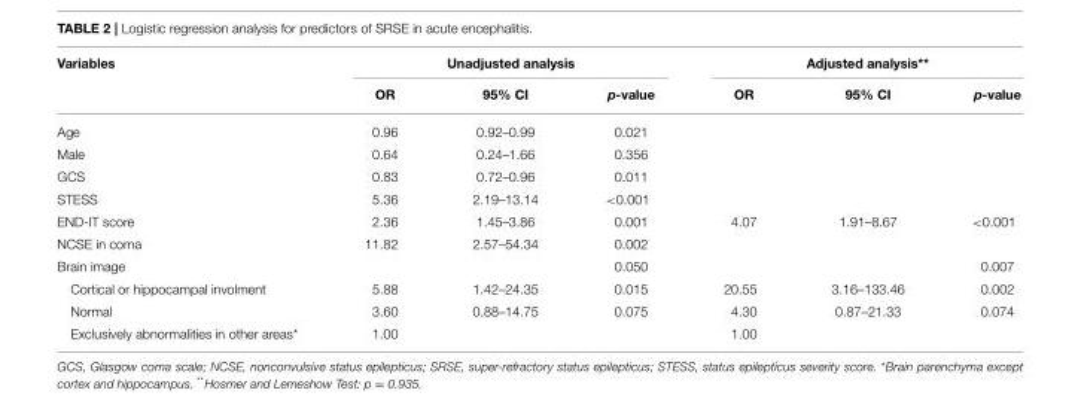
<table><thead><tr><td rowspan="2">Variables</td><td colspan="3">Unadjusted analysis</td><td colspan="3">Adjusted analysis**</td></tr><tr><td>OR</td><td>95% CI</td><td>p-value</td><td>OR</td><td>95% CI</td><td>p-value</td></tr></thead><tbody><tr><td>Age</td><td>0.96</td><td>0.92–0.99</td><td>0.021</td><td></td><td></td><td></td></tr><tr><td>Male</td><td>0.64</td><td>0.24–1.66</td><td>0.356</td><td></td><td></td><td></td></tr><tr><td>GCS</td><td>0.83</td><td>0.72–0.96</td><td>0.011</td><td></td><td></td><td></td></tr><tr><td>STESS</td><td>5.36</td><td>2.19–13.14</td><td>&lt;0.001</td><td></td><td></td><td></td></tr><tr><td>END-IT score</td><td>2.36</td><td>1.45–3.86</td><td>0.001</td><td>4.07</td><td>1.91–8.67</td><td>&lt;0.001</td></tr><tr><td>NCSE in coma</td><td>11.82</td><td>2.57–54.34</td><td>0.002</td><td></td><td></td><td></td></tr><tr><td>Brain image</td><td></td><td></td><td>0.050</td><td></td><td></td><td>0.007</td></tr><tr><td>Cortical or hippocampal involment</td><td>5.88</td><td>1.42–24.35</td><td>0.015</td><td>20.55</td><td>3.16–133.46</td><td>0.002</td></tr><tr><td>Normal</td><td>3.60</td><td>0.88–14.75</td><td>0.075</td><td>4.30</td><td>0.87–21.33</td><td>0.074</td></tr><tr><td>Exclusively abnormalities in other areas*</td><td>1.00</td><td></td><td></td><td>1.00</td><td></td><td></td></tr></tbody></table>